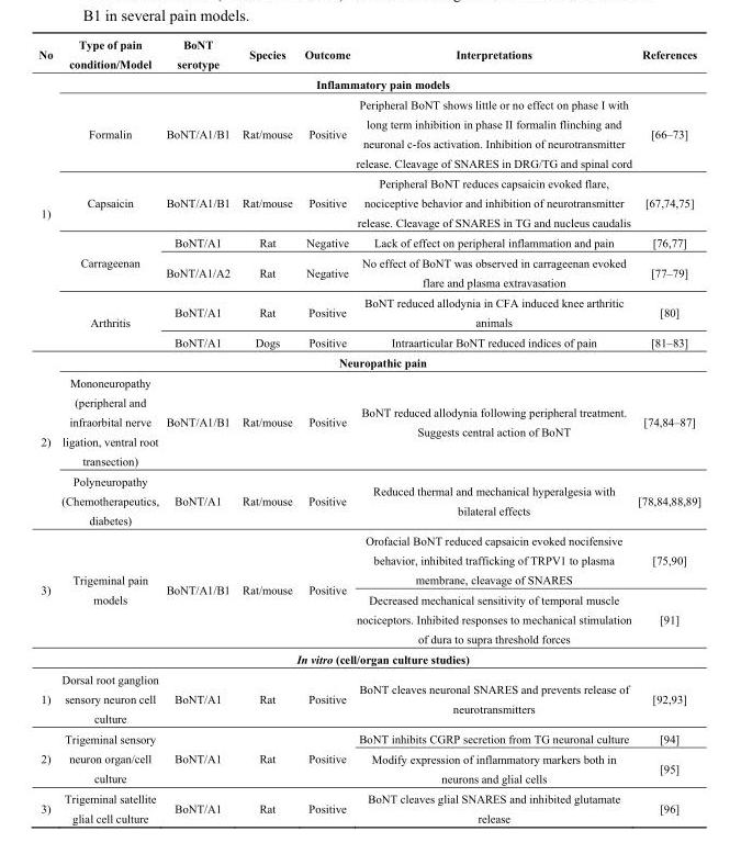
<table><thead><tr><td>No</td><td>Type of pain condition/Model</td><td>BoNT serotype</td><td>Species</td><td>Outcome</td><td>Interpretations</td><td>References</td></tr></thead><tbody><tr><td rowspan="7">1)</td><td colspan="6">Inflammatory pain models</td></tr><tr><td>Formalin</td><td>BoNT/A1/B1</td><td>Rat/mouse</td><td>Positive</td><td>Peripheral BoNT shows little or no effect on phase I with long term inhibition in phase II formalin flinching and neuronal c-fos activation. Inhibition of neurotransmitter release. Cleavage of SNARES in DRG/TG and spinal cord</td><td>[66–73]</td></tr><tr><td>Capsaicin</td><td>BoNT/A1/B1</td><td>Rat/mouse</td><td>Positive</td><td>Peripheral BoNT reduces capsaicin evoked flare, nociceptive behavior and inhibition of neurotransmitter release. Cleavage of SNARES in TG and nucleus caudalis</td><td>[67,74,75]</td></tr><tr><td rowspan="2">Carrageenan</td><td>BoNT/A1</td><td>Rat</td><td>Negative</td><td>Lack of effect on peripheral inflammation and pain</td><td>[76,77]</td></tr><tr><td>BoNT/A1/A2</td><td>Rat</td><td>Negative</td><td>No effect of BoNT was observed in carrageenan evoked flare and plasma extravasation</td><td>[77–79]</td></tr><tr><td rowspan="2">Arthritis</td><td>BoNT/A1</td><td>Rat</td><td>Positive</td><td>BoNT reduced allodynia in CFA induced knee arthritic animals</td><td>[80]</td></tr><tr><td>BoNT/A1</td><td>Dogs</td><td>Positive</td><td>Intraarticular BoNT reduced indices of pain</td><td>[81–83]</td></tr><tr><td rowspan="3">2)</td><td colspan="6">Neuropathic pain</td></tr><tr><td>Mononeuropathy (peripheral and infraorbital nerve ligation, ventral root transection)</td><td>BoNT/A1/B1</td><td>Rat/mouse</td><td>Positive</td><td>BoNT reduced allodynia following peripheral treatment. Suggests central action of BoNT</td><td>[74,84–87]</td></tr><tr><td>Polyneuropathy (Chemotherapeutics, diabetes)</td><td>BoNT/A1</td><td>Rat/mouse</td><td>Positive</td><td>Reduced thermal and mechanical hyperalgesia with bilateral effects</td><td>[78,84,88,89]</td></tr><tr><td rowspan="3">3)</td><td rowspan="2">Trigeminal pain models</td><td rowspan="2">BoNT/A1/B1</td><td rowspan="2">Rat/mouse</td><td rowspan="2">Positive</td><td>Orofacial BoNT reduced capsaicin evoked nocifensive behavior, inhibited trafficking of TRPV1 to plasma membrane, cleavage of SNARES</td><td>[75,90]</td></tr><tr><td>Decreased mechanical sensitivity of temporal muscle nociceptors. Inhibited responses to mechanical stimulation of dura to supra threshold forces</td><td>[91]</td></tr><tr><td colspan="6">In vitro (cell/organ culture studies)</td></tr><tr><td>1)</td><td>Dorsal root ganglion sensory neuron cell culture</td><td>BoNT/A1</td><td>Rat</td><td>Positive</td><td>BoNT cleaves neuronal SNARES and prevents release of neurotransmitters</td><td>[92,93]</td></tr><tr><td rowspan="2">2)</td><td rowspan="2">Trigeminal sensory neuron organ/cell culture</td><td rowspan="2">BoNT/A1</td><td rowspan="2">Rat</td><td rowspan="2">Positive</td><td>BoNT inhibits CGRP secretion from TG neuronal culture</td><td>[94]</td></tr><tr><td>Modify expression of inflammatory markers both in neurons and glial cells</td><td>[95]</td></tr><tr><td>3)</td><td>Trigeminal satellite glial cell culture</td><td>BoNT/A1</td><td>Rat</td><td>Positive</td><td>BoNT cleaves glial SNARES and inhibited glutamate release</td><td>[96]</td></tr></tbody></table>